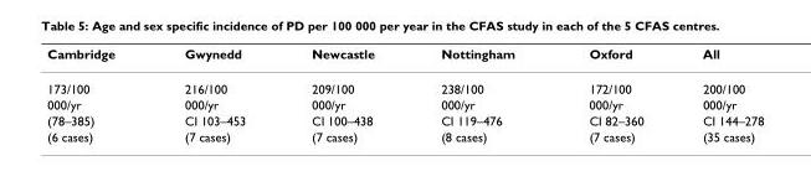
<table><thead><tr><td>Cambridge</td><td>Gwynedd</td><td>Newcastle</td><td>Nottingham</td><td>Oxford</td><td>All</td></tr></thead><tbody><tr><td>173/100</td><td>216/100</td><td>209/100</td><td>238/100</td><td>172/100</td><td>200/100</td></tr><tr><td>000/yr</td><td>000/yr</td><td>000/yr</td><td>000/yr</td><td>000/yr</td><td>000/yr</td></tr><tr><td>(78–385)</td><td>CI 103–453</td><td>CI 100–438</td><td>CI 119–476</td><td>CI 82–360</td><td>CI 144–278</td></tr><tr><td>(6 cases)</td><td>(7 cases)</td><td>(7 cases)</td><td>(8 cases)</td><td>(7 cases)</td><td>(35 cases)</td></tr></tbody></table>